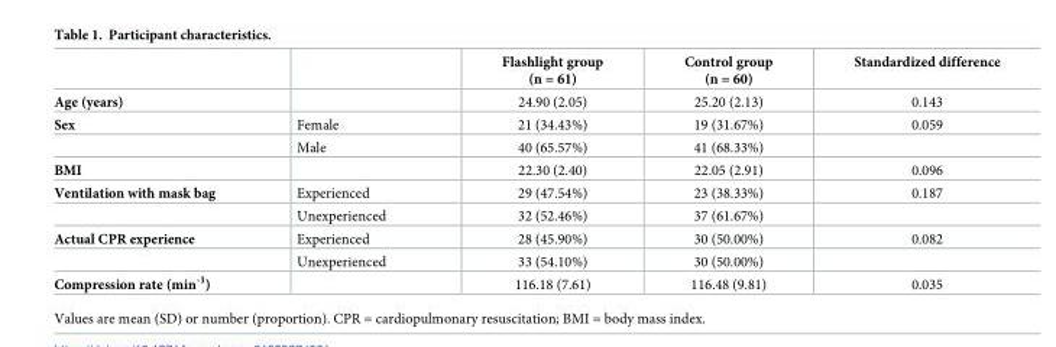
<table><thead><tr><td></td><td></td><td>Flashlight group (n = 61)</td><td>Control group (n = 60)</td><td>Standardized difference</td></tr></thead><tbody><tr><td>Age (years)</td><td></td><td>24.90 (2.05)</td><td>25.20 (2.13)</td><td>0.143</td></tr><tr><td rowspan="2">Sex</td><td>Female</td><td>21 (34.43%)</td><td>19 (31.67%)</td><td>0.059</td></tr><tr><td>Male</td><td>40 (65.57%)</td><td>41 (68.33%)</td><td></td></tr><tr><td>BMI</td><td></td><td>22.30 (2.40)</td><td>22.05 (2.91)</td><td>0.096</td></tr><tr><td rowspan="2">Ventilation with mask bag</td><td>Experienced</td><td>29 (47.54%)</td><td>23 (38.33%)</td><td>0.187</td></tr><tr><td>Unexperienced</td><td>32 (52.46%)</td><td>37 (61.67%)</td><td></td></tr><tr><td rowspan="2">Actual CPR experience</td><td>Experienced</td><td>28 (45.90%)</td><td>30 (50.00%)</td><td>0.082</td></tr><tr><td>Unexperienced</td><td>33 (54.10%)</td><td>30 (50.00%)</td><td></td></tr><tr><td>Compression rate (min<sup>-1</sup>)</td><td></td><td>116.18 (7.61)</td><td>116.48 (9.81)</td><td>0.035</td></tr></tbody></table>